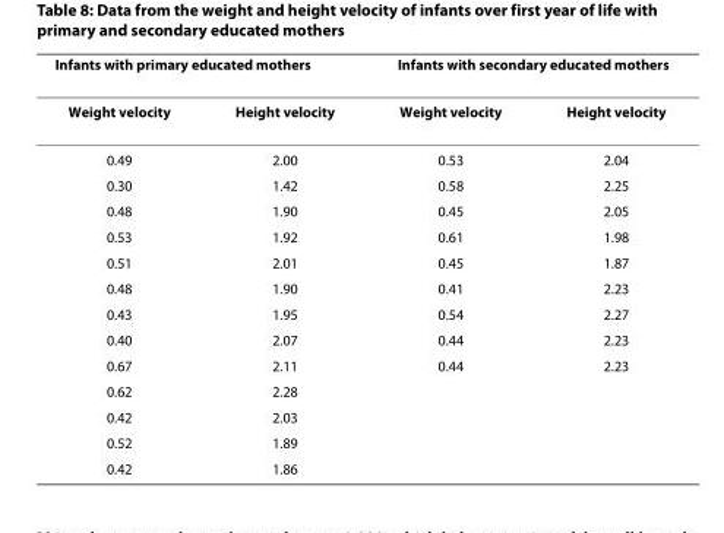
<table><thead><tr><td colspan="2">Infants with primary educated mothers</td><td colspan="2">Infants with secondary educated mothers</td></tr><tr><td>Weight velocity</td><td>Height velocity</td><td>Weight velocity</td><td>Height velocity</td></tr></thead><tbody><tr><td>0.49</td><td>2.00</td><td>0.53</td><td>2.04</td></tr><tr><td>0.30</td><td>1.42</td><td>0.58</td><td>2.25</td></tr><tr><td>0.48</td><td>1.90</td><td>0.45</td><td>2.05</td></tr><tr><td>0.53</td><td>1.92</td><td>0.61</td><td>1.98</td></tr><tr><td>0.51</td><td>2.01</td><td>0.45</td><td>1.87</td></tr><tr><td>0.48</td><td>1.90</td><td>0.41</td><td>2.23</td></tr><tr><td>0.43</td><td>1.95</td><td>0.54</td><td>2.27</td></tr><tr><td>0.40</td><td>2.07</td><td>0.44</td><td>2.23</td></tr><tr><td>0.67</td><td>2.11</td><td>0.44</td><td>2.23</td></tr><tr><td>0.62</td><td>2.28</td><td></td><td></td></tr><tr><td>0.42</td><td>2.03</td><td></td><td></td></tr><tr><td>0.52</td><td>1.89</td><td></td><td></td></tr><tr><td>0.42</td><td>1.86</td><td></td><td></td></tr></tbody></table>